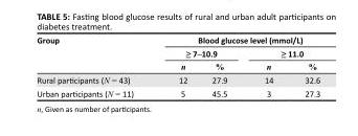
<table><thead><tr><td rowspan="3">Group</td><td colspan="4">Blood glucose level (mmol/L)</td></tr><tr><td colspan="2">≥ 7–10.9</td><td colspan="2">≥ 11.0</td></tr><tr><td>n</td><td>%</td><td>n</td><td>%</td></tr></thead><tbody><tr><td>Rural participants (N = 43)</td><td>12</td><td>27.9</td><td>14</td><td>32.6</td></tr><tr><td>Urban participants (N = 11)</td><td>5</td><td>45.5</td><td>3</td><td>27.3</td></tr></tbody></table>